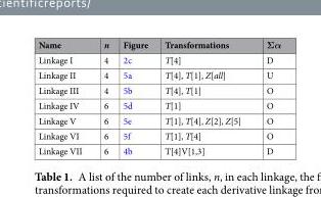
<table><thead><tr><td>Name</td><td>n</td><td>Figure</td><td>Transformations</td><td>Σα</td></tr></thead><tbody><tr><td>Linkage I</td><td>4</td><td>2c</td><td>T[4]</td><td>D</td></tr><tr><td>Linkage II</td><td>4</td><td>5a</td><td>T[4], T[1], Z[all]</td><td>U</td></tr><tr><td>Linkage III</td><td>4</td><td>5b</td><td>T[4], T[1]</td><td>O</td></tr><tr><td>Linkage IV</td><td>6</td><td>5d</td><td>T[1]</td><td>O</td></tr><tr><td>Linkage V</td><td>6</td><td>5e</td><td>T[1], T[4], Z[2], Z[5]</td><td>O</td></tr><tr><td>Linkage VI</td><td>6</td><td>5f</td><td>T[1], T[4]</td><td>O</td></tr><tr><td>Linkage VII</td><td>6</td><td>4b</td><td>T[4]V[1,3]</td><td>D</td></tr></tbody></table>